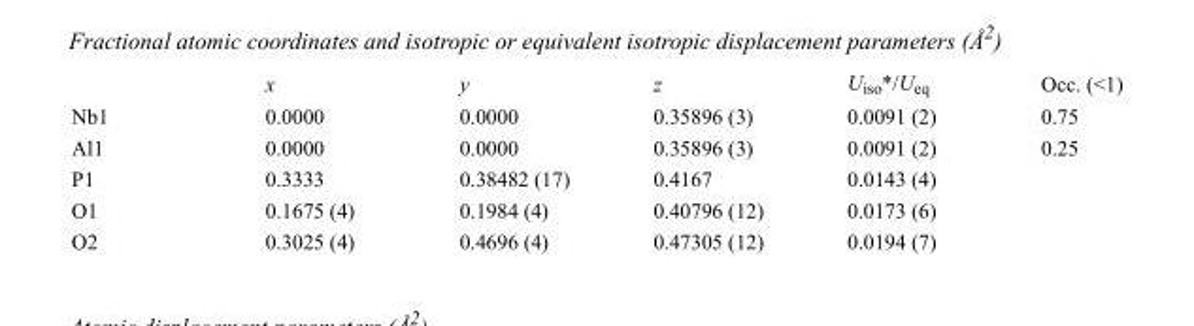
<table><thead><tr><td></td><td>x</td><td>y</td><td>z</td><td>U<sub>iso</sub>*/U<sub>eq</sub></td><td>Occ. (&lt;1)</td></tr></thead><tbody><tr><td>Nb1</td><td>0.0000</td><td>0.0000</td><td>0.35896 (3)</td><td>0.0091 (2)</td><td>0.75</td></tr><tr><td>Al1</td><td>0.0000</td><td>0.0000</td><td>0.35896 (3)</td><td>0.0091 (2)</td><td>0.25</td></tr><tr><td>P1</td><td>0.3333</td><td>0.38482 (17)</td><td>0.4167</td><td>0.0143 (4)</td><td></td></tr><tr><td>O1</td><td>0.1675 (4)</td><td>0.1984 (4)</td><td>0.40796 (12)</td><td>0.0173 (6)</td><td></td></tr><tr><td>O2</td><td>0.3025 (4)</td><td>0.4696 (4)</td><td>0.47305 (12)</td><td>0.0194 (7)</td><td></td></tr></tbody></table>